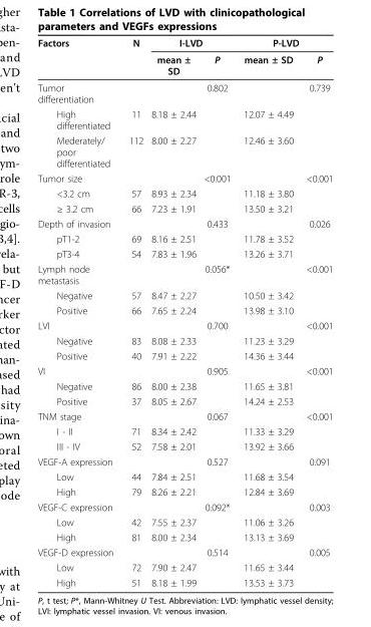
<table><thead><tr><td rowspan="2">Factors</td><td rowspan="2">N</td><td colspan="2">I-LVD</td><td colspan="2">P-LVD</td></tr><tr><td>mean ± SD</td><td>P</td><td>mean ± SD</td><td>P</td></tr></thead><tbody><tr><td>Tumor differentiation</td><td></td><td></td><td>0.802</td><td></td><td>0.739</td></tr><tr><td>High differentiated</td><td>11</td><td>8.18 ± 2.44</td><td></td><td>12.07 ± 4.49</td><td></td></tr><tr><td>Mederately/ poor differentiated</td><td>112</td><td>8.00 ± 2.27</td><td></td><td>12.46 ± 3.60</td><td></td></tr><tr><td>Tumor size</td><td></td><td></td><td>&lt;0.001</td><td></td><td>&lt;0.001</td></tr><tr><td>&lt;3.2 cm</td><td>57</td><td>8.93 ± 2.34</td><td></td><td>11.18 ± 3.80</td><td></td></tr><tr><td>≥ 3.2 cm</td><td>66</td><td>7.23 ± 1.91</td><td></td><td>13.50 ± 3.21</td><td></td></tr><tr><td>Depth of invasion</td><td></td><td></td><td>0.433</td><td></td><td>0.026</td></tr><tr><td>pT1-2</td><td>69</td><td>8.16 ± 2.51</td><td></td><td>11.78 ± 3.52</td><td></td></tr><tr><td>pT3-4</td><td>54</td><td>7.83 ± 1.96</td><td></td><td>13.26 ± 3.71</td><td></td></tr><tr><td>Lymph node metastasis</td><td></td><td></td><td>0.056*</td><td></td><td>&lt;0.001</td></tr><tr><td>Negative</td><td>57</td><td>8.47 ± 2.27</td><td></td><td>10.50 ± 3.42</td><td></td></tr><tr><td>Positive</td><td>66</td><td>7.65 ± 2.24</td><td></td><td>13.98 ± 3.10</td><td></td></tr><tr><td>LVI</td><td></td><td></td><td>0.700</td><td></td><td>&lt;0.001</td></tr><tr><td>Negative</td><td>83</td><td>8.08 ± 2.33</td><td></td><td>11.23 ± 3.29</td><td></td></tr><tr><td>Positive</td><td>40</td><td>7.91 ± 2.22</td><td></td><td>14.36 ± 3.44</td><td></td></tr><tr><td>VI</td><td></td><td></td><td>0.905</td><td></td><td>&lt;0.001</td></tr><tr><td>Negative</td><td>86</td><td>8.00 ± 2.38</td><td></td><td>11.65 ± 3.81</td><td></td></tr><tr><td>Positive</td><td>37</td><td>8.05 ± 2.67</td><td></td><td>14.24 ± 2.53</td><td></td></tr><tr><td>TNM stage</td><td></td><td></td><td>0.067</td><td></td><td>&lt;0.001</td></tr><tr><td>I - II</td><td>71</td><td>8.34 ± 2.42</td><td></td><td>11.33 ± 3.29</td><td></td></tr><tr><td>III - IV</td><td>52</td><td>7.58 ± 2.01</td><td></td><td>13.92 ± 3.66</td><td></td></tr><tr><td>VEGF-A expression</td><td></td><td></td><td>0.527</td><td></td><td>0.091</td></tr><tr><td>Low</td><td>44</td><td>7.84 ± 2.51</td><td></td><td>11.68 ± 3.54</td><td></td></tr><tr><td>High</td><td>79</td><td>8.26 ± 2.21</td><td></td><td>12.84 ± 3.69</td><td></td></tr><tr><td>VEGF-C expression</td><td></td><td></td><td>0.092*</td><td></td><td>0.003</td></tr><tr><td>Low</td><td>42</td><td>7.55 ± 2.37</td><td></td><td>11.06 ± 3.26</td><td></td></tr><tr><td>High</td><td>81</td><td>8.00 ± 2.34</td><td></td><td>13.13 ± 3.69</td><td></td></tr><tr><td>VEGF-D expression</td><td></td><td></td><td>0.514</td><td></td><td>0.005</td></tr><tr><td>Low</td><td>72</td><td>7.90 ± 2.47</td><td></td><td>11.65 ± 3.44</td><td></td></tr><tr><td>High</td><td>51</td><td>8.18 ± 1.99</td><td></td><td>13.53 ± 3.73</td><td></td></tr></tbody></table>